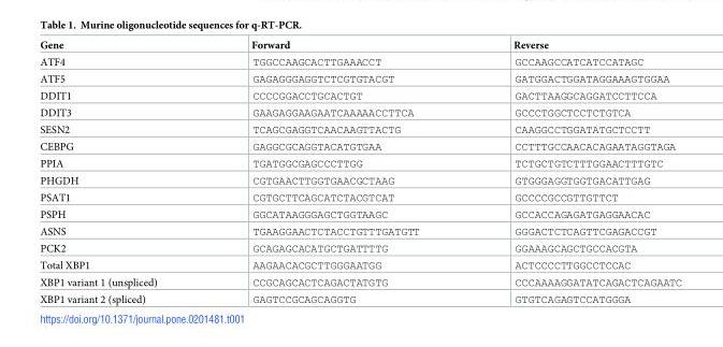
<table><thead><tr><td>Gene</td><td>Forward</td><td>Reverse</td></tr></thead><tbody><tr><td>ATF4</td><td>TGGCCAAGCACTTGAAACCT</td><td>GCCAAGCCATCATCCATAGC</td></tr><tr><td>ATF5</td><td>GAGAGGGAGGTCTCGTGTACGT</td><td>GATGGACTGGATAGGAAAGTGGAA</td></tr><tr><td>DDIT1</td><td>CCCCGGACCTGCACTGT</td><td>GACTTAAGGCAGGATCCTTCCA</td></tr><tr><td>DDIT3</td><td>GAAGAGGAAGAATCAAAAACCTTCA</td><td>GCCCTGGCTCCTCTGTCA</td></tr><tr><td>SESN2</td><td>TCAGCGAGGTCAACAAGTTACTG</td><td>CAAGGCCTGGATATGCTCCTT</td></tr><tr><td>CEBPG</td><td>GAGGCGCAGGTACATGTGAA</td><td>CCTTTGCCAACACAGAATAGGTAGA</td></tr><tr><td>PPIA</td><td>TGATGGCGAGCCCTTGG</td><td>TCTGCTGTCTTTGGAACTTTGTC</td></tr><tr><td>PHGDH</td><td>CGTGAACTTGGTGAACGCTAAG</td><td>GTGGGAGGTGGTGACATTGAG</td></tr><tr><td>PSAT1</td><td>CGTGCTTCAGCATCTACGTCAT</td><td>GCCCCGCCGTTGTTCT</td></tr><tr><td>PSPH</td><td>GGCATAAGGGAGCTGGTAAGC</td><td>GCCACCAGAGATGAGGAACAC</td></tr><tr><td>ASNS</td><td>TGAAGGAACTCTACCTGTTTGATGTT</td><td>GGGACTCTCAGTTCGAGACCGT</td></tr><tr><td>PCK2</td><td>GCAGAGCACATGCTGATTTTG</td><td>GGAAAGCAGCTGCCACGTA</td></tr><tr><td>Total XBP1</td><td>AAGAACACGCTTGGGAATGG</td><td>ACTCCCCTTGGCCTCCAC</td></tr><tr><td>XBP1 variant 1 (unspliced)</td><td>CCGCAGCACTCAGACTATGTG</td><td>CCCAAAAGGATATCAGACTCAGAATC</td></tr><tr><td>XBP1 variant 2 (spliced)</td><td>GAGTCCGCAGCAGGTG</td><td>GTGTCAGAGTCCATGGGA</td></tr></tbody></table>